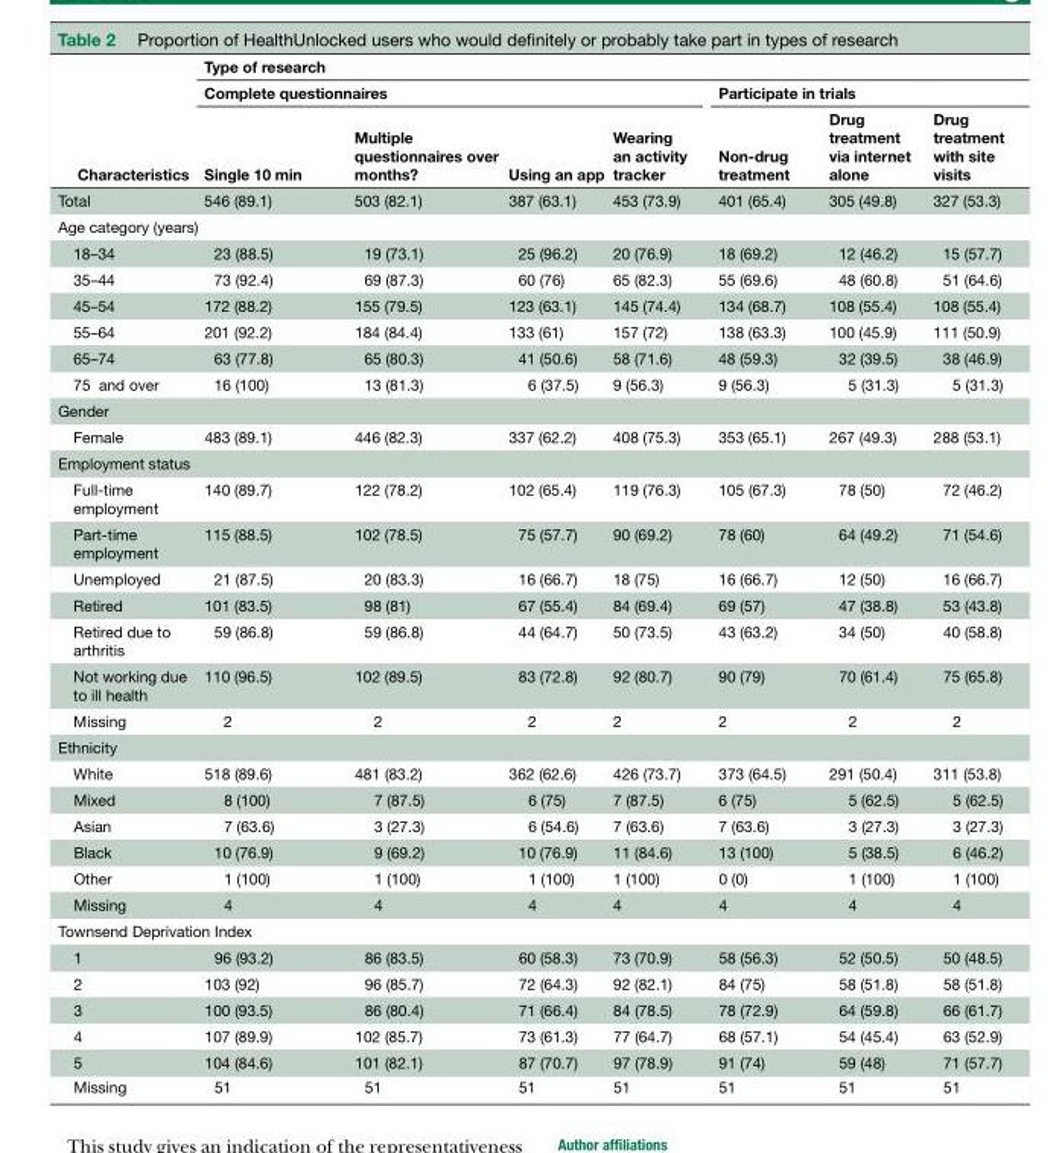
<table><thead><tr><td rowspan="3">Characteristics</td><td colspan="7">Type of research</td></tr><tr><td colspan="4">Complete questionnaires</td><td colspan="3">Participate in trials</td></tr><tr><td>Single 10 min</td><td>Multiple questionnaires over months?</td><td>Using an app</td><td>Wearing an activity tracker</td><td>Non-drug treatment</td><td>Drug treatment via internet alone</td><td>Drug treatment with site visits</td></tr></thead><tbody><tr><td>Total</td><td>546 (89.1)</td><td>503 (82.1)</td><td>387 (63.1)</td><td>453 (73.9)</td><td>401 (65.4)</td><td>305 (49.8)</td><td>327 (53.3)</td></tr><tr><td colspan="8">Age category (years)</td></tr><tr><td>18–34</td><td>23 (88.5)</td><td>19 (73.1)</td><td>25 (96.2)</td><td>20 (76.9)</td><td>18 (69.2)</td><td>12 (46.2)</td><td>15 (57.7)</td></tr><tr><td>35–44</td><td>73 (92.4)</td><td>69 (87.3)</td><td>60 (76)</td><td>65 (82.3)</td><td>55 (69.6)</td><td>48 (60.8)</td><td>51 (64.6)</td></tr><tr><td>45–54</td><td>172 (88.2)</td><td>155 (79.5)</td><td>123 (63.1)</td><td>145 (74.4)</td><td>134 (68.7)</td><td>108 (55.4)</td><td>108 (55.4)</td></tr><tr><td>55–64</td><td>201 (92.2)</td><td>184 (84.4)</td><td>133 (61)</td><td>157 (72)</td><td>138 (63.3)</td><td>100 (45.9)</td><td>111 (50.9)</td></tr><tr><td>65–74</td><td>63 (77.8)</td><td>65 (80.3)</td><td>41 (50.6)</td><td>58 (71.6)</td><td>48 (59.3)</td><td>32 (39.5)</td><td>38 (46.9)</td></tr><tr><td>75 and over</td><td>16 (100)</td><td>13 (81.3)</td><td>6 (37.5)</td><td>9 (56.3)</td><td>9 (56.3)</td><td>5 (31.3)</td><td>5 (31.3)</td></tr><tr><td colspan="8">Gender</td></tr><tr><td>Female</td><td>483 (89.1)</td><td>446 (82.3)</td><td>337 (62.2)</td><td>408 (75.3)</td><td>353 (65.1)</td><td>267 (49.3)</td><td>288 (53.1)</td></tr><tr><td colspan="8">Employment status</td></tr><tr><td>Full-time employment</td><td>140 (89.7)</td><td>122 (78.2)</td><td>102 (65.4)</td><td>119 (76.3)</td><td>105 (67.3)</td><td>78 (50)</td><td>72 (46.2)</td></tr><tr><td>Part-time employment</td><td>115 (88.5)</td><td>102 (78.5)</td><td>75 (57.7)</td><td>90 (69.2)</td><td>78 (60)</td><td>64 (49.2)</td><td>71 (54.6)</td></tr><tr><td>Unemployed</td><td>21 (87.5)</td><td>20 (83.3)</td><td>16 (66.7)</td><td>18 (75)</td><td>16 (66.7)</td><td>12 (50)</td><td>16 (66.7)</td></tr><tr><td>Retired</td><td>101 (83.5)</td><td>98 (81)</td><td>67 (55.4)</td><td>84 (69.4)</td><td>69 (57)</td><td>47 (38.8)</td><td>53 (43.8)</td></tr><tr><td>Retired due to arthritis</td><td>59 (86.8)</td><td>59 (86.8)</td><td>44 (64.7)</td><td>50 (73.5)</td><td>43 (63.2)</td><td>34 (50)</td><td>40 (58.8)</td></tr><tr><td>Not working due to ill health</td><td>110 (96.5)</td><td>102 (89.5)</td><td>83 (72.8)</td><td>92 (80.7)</td><td>90 (79)</td><td>70 (61.4)</td><td>75 (65.8)</td></tr><tr><td>Missing</td><td>2</td><td>2</td><td>2</td><td>2</td><td>2</td><td>2</td><td>2</td></tr><tr><td colspan="8">Ethnicity</td></tr><tr><td>White</td><td>518 (89.6)</td><td>481 (83.2)</td><td>362 (62.6)</td><td>426 (73.7)</td><td>373 (64.5)</td><td>291 (50.4)</td><td>311 (53.8)</td></tr><tr><td>Mixed</td><td>8 (100)</td><td>7 (87.5)</td><td>6 (75)</td><td>7 (87.5)</td><td>6 (75)</td><td>5 (62.5)</td><td>5 (62.5)</td></tr><tr><td>Asian</td><td>7 (63.6)</td><td>3 (27.3)</td><td>6 (54.6)</td><td>7 (63.6)</td><td>7 (63.6)</td><td>3 (27.3)</td><td>3 (27.3)</td></tr><tr><td>Black</td><td>10 (76.9)</td><td>9 (69.2)</td><td>10 (76.9)</td><td>11 (84.6)</td><td>13 (100)</td><td>5 (38.5)</td><td>6 (46.2)</td></tr><tr><td>Other</td><td>1 (100)</td><td>1 (100)</td><td>1 (100)</td><td>1 (100)</td><td>0 (0)</td><td>1 (100)</td><td>1 (100)</td></tr><tr><td>Missing</td><td>4</td><td>4</td><td>4</td><td>4</td><td>4</td><td>4</td><td>4</td></tr><tr><td colspan="8">Townsend Deprivation Index</td></tr><tr><td>1</td><td>96 (93.2)</td><td>86 (83.5)</td><td>60 (58.3)</td><td>73 (70.9)</td><td>58 (56.3)</td><td>52 (50.5)</td><td>50 (48.5)</td></tr><tr><td>2</td><td>103 (92)</td><td>96 (85.7)</td><td>72 (64.3)</td><td>92 (82.1)</td><td>84 (75)</td><td>58 (51.8)</td><td>58 (51.8)</td></tr><tr><td>3</td><td>100 (93.5)</td><td>86 (80.4)</td><td>71 (66.4)</td><td>84 (78.5)</td><td>78 (72.9)</td><td>64 (59.8)</td><td>66 (61.7)</td></tr><tr><td>4</td><td>107 (89.9)</td><td>102 (85.7)</td><td>73 (61.3)</td><td>77 (64.7)</td><td>68 (57.1)</td><td>54 (45.4)</td><td>63 (52.9)</td></tr><tr><td>5</td><td>104 (84.6)</td><td>101 (82.1)</td><td>87 (70.7)</td><td>97 (78.9)</td><td>91 (74)</td><td>59 (48)</td><td>71 (57.7)</td></tr><tr><td>Missing</td><td>51</td><td>51</td><td>51</td><td>51</td><td>51</td><td>51</td><td>51</td></tr></tbody></table>